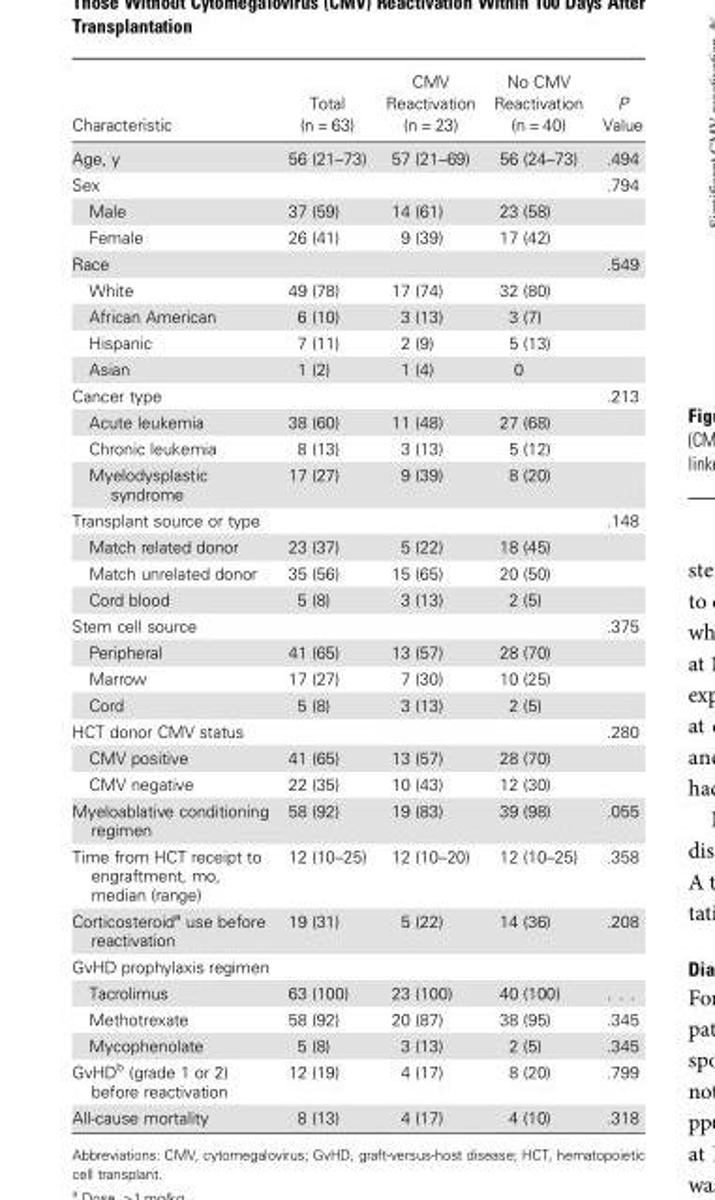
<table><thead><tr><td>Characteristic</td><td>Total (n = 63)</td><td>CMV Reactivation (n = 23)</td><td>No CMV Reactivation (n = 40)</td><td>P Value</td></tr></thead><tbody><tr><td>Age, y</td><td>56 (21–73)</td><td>57 (21–69)</td><td>56 (24–73)</td><td>.494</td></tr><tr><td>Sex</td><td></td><td></td><td></td><td>.794</td></tr><tr><td>Male</td><td>37 (59)</td><td>14 (61)</td><td>23 (58)</td><td></td></tr><tr><td>Female</td><td>26 (41)</td><td>9 (39)</td><td>17 (42)</td><td></td></tr><tr><td>Race</td><td></td><td></td><td></td><td>.549</td></tr><tr><td>White</td><td>49 (78)</td><td>17 (74)</td><td>32 (80)</td><td></td></tr><tr><td>African American</td><td>6 (10)</td><td>3 (13)</td><td>3 (7)</td><td></td></tr><tr><td>Hispanic</td><td>7 (11)</td><td>2 (9)</td><td>5 (13)</td><td></td></tr><tr><td>Asian</td><td>1 (2)</td><td>1 (4)</td><td>0</td><td></td></tr><tr><td>Cancer type</td><td></td><td></td><td></td><td>.213</td></tr><tr><td>Acute leukemia</td><td>38 (60)</td><td>11 (48)</td><td>27 (68)</td><td></td></tr><tr><td>Chronic leukemia</td><td>8 (13)</td><td>3 (13)</td><td>5 (12)</td><td></td></tr><tr><td>Myelodysplastic syndrome</td><td>17 (27)</td><td>9 (39)</td><td>8 (20)</td><td></td></tr><tr><td>Transplant source or type</td><td></td><td></td><td></td><td>.148</td></tr><tr><td>Match related donor</td><td>23 (37)</td><td>5 (22)</td><td>18 (45)</td><td></td></tr><tr><td>Match unrelated donor</td><td>35 (56)</td><td>15 (65)</td><td>20 (50)</td><td></td></tr><tr><td>Cord blood</td><td>5 (8)</td><td>3 (13)</td><td>2 (5)</td><td></td></tr><tr><td>Stem cell source</td><td></td><td></td><td></td><td>.375</td></tr><tr><td>Peripheral</td><td>41 (65)</td><td>13 (57)</td><td>28 (70)</td><td></td></tr><tr><td>Marrow</td><td>17 (27)</td><td>7 (30)</td><td>10 (25)</td><td></td></tr><tr><td>Cord</td><td>5 (8)</td><td>3 (13)</td><td>2 (5)</td><td></td></tr><tr><td>HCT donor CMV status</td><td></td><td></td><td></td><td>.280</td></tr><tr><td>CMV positive</td><td>41 (65)</td><td>13 (57)</td><td>28 (70)</td><td></td></tr><tr><td>CMV negative</td><td>22 (35)</td><td>10 (43)</td><td>12 (30)</td><td></td></tr><tr><td>Myeloablative conditioning regimen</td><td>58 (92)</td><td>19 (83)</td><td>39 (98)</td><td>.055</td></tr><tr><td>Time from HCT receipt to engraftment, mo, median (range)</td><td>12 (10–25)</td><td>12 (10–20)</td><td>12 (10–25)</td><td>.358</td></tr><tr><td>Corticosteroid<sup>a</sup> use before reactivation</td><td>19 (31)</td><td>5 (22)</td><td>14 (36)</td><td>.208</td></tr><tr><td colspan="5">GvHD prophylaxis regimen</td></tr><tr><td>Tacrolimus</td><td>63 (100)</td><td>23 (100)</td><td>40 (100)</td><td>. . .</td></tr><tr><td>Methotrexate</td><td>58 (92)</td><td>20 (87)</td><td>38 (95)</td><td>.345</td></tr><tr><td>Mycophenolate</td><td>5 (8)</td><td>3 (13)</td><td>2 (5)</td><td>.345</td></tr><tr><td>GvHD<sup>b</sup> (grade 1 or 2) before reactivation</td><td>12 (19)</td><td>4 (17)</td><td>8 (20)</td><td>.799</td></tr><tr><td>All-cause mortality</td><td>8 (13)</td><td>4 (17)</td><td>4 (10)</td><td>.318</td></tr></tbody></table>